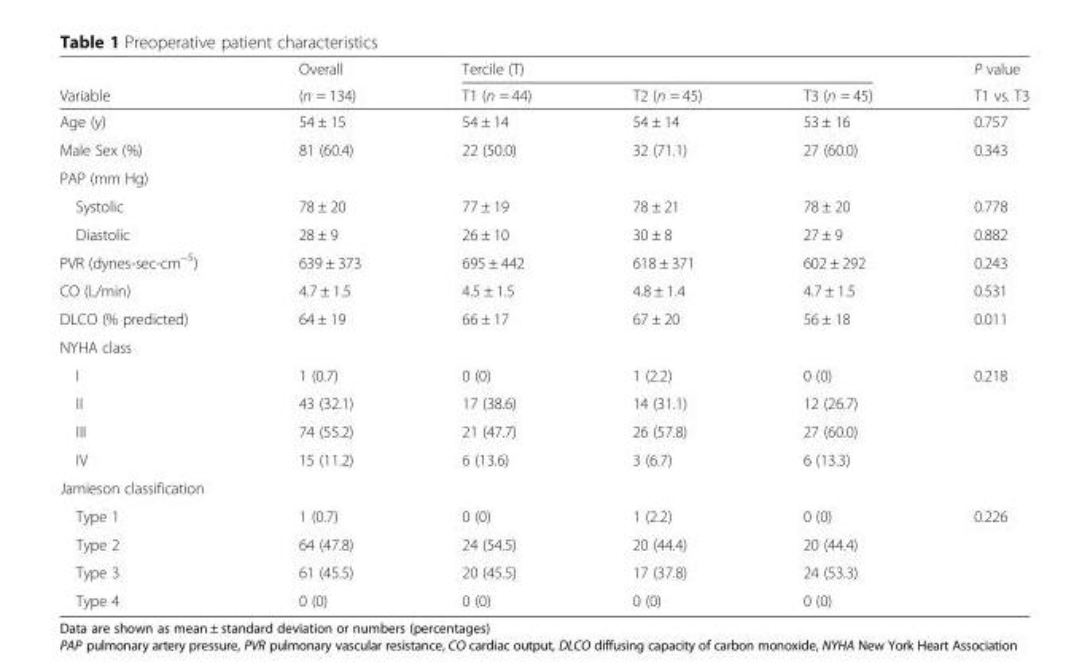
<table><thead><tr><td rowspan="2">Variable</td><td rowspan="2">Overall (n = 134)</td><td colspan="3">Tercile (T)</td><td rowspan="2">P value T1 vs. T3</td></tr><tr><td>T1 (n = 44)</td><td>T2 (n = 45)</td><td>T3 (n = 45)</td></tr></thead><tbody><tr><td>Age (y)</td><td>54 ± 15</td><td>54 ± 14</td><td>54 ± 14</td><td>53 ± 16</td><td>0.757</td></tr><tr><td>Male Sex (%)</td><td>81 (60.4)</td><td>22 (50.0)</td><td>32 (71.1)</td><td>27 (60.0)</td><td>0.343</td></tr><tr><td colspan="6">PAP (mm Hg)</td></tr><tr><td>Systolic</td><td>78 ± 20</td><td>77 ± 19</td><td>78 ± 21</td><td>78 ± 20</td><td>0.778</td></tr><tr><td>Diastolic</td><td>28 ± 9</td><td>26 ± 10</td><td>30 ± 8</td><td>27 ± 9</td><td>0.882</td></tr><tr><td>PVR (dynes-sec-cm<sup>−5</sup>)</td><td>639 ± 373</td><td>695 ± 442</td><td>618 ± 371</td><td>602 ± 292</td><td>0.243</td></tr><tr><td>CO (L/min)</td><td>4.7 ± 1.5</td><td>4.5 ± 1.5</td><td>4.8 ± 1.4</td><td>4.7 ± 1.5</td><td>0.531</td></tr><tr><td>DLCO (% predicted)</td><td>64 ± 19</td><td>66 ± 17</td><td>67 ± 20</td><td>56 ± 18</td><td>0.011</td></tr><tr><td colspan="6">NYHA class</td></tr><tr><td>I</td><td>1 (0.7)</td><td>0 (0)</td><td>1 (2.2)</td><td>0 (0)</td><td>0.218</td></tr><tr><td>II</td><td>43 (32.1)</td><td>17 (38.6)</td><td>14 (31.1)</td><td>12 (26.7)</td><td></td></tr><tr><td>III</td><td>74 (55.2)</td><td>21 (47.7)</td><td>26 (57.8)</td><td>27 (60.0)</td><td></td></tr><tr><td>IV</td><td>15 (11.2)</td><td>6 (13.6)</td><td>3 (6.7)</td><td>6 (13.3)</td><td></td></tr><tr><td colspan="6">Jamieson classification</td></tr><tr><td>Type 1</td><td>1 (0.7)</td><td>0 (0)</td><td>1 (2.2)</td><td>0 (0)</td><td>0.226</td></tr><tr><td>Type 2</td><td>64 (47.8)</td><td>24 (54.5)</td><td>20 (44.4)</td><td>20 (44.4)</td><td></td></tr><tr><td>Type 3</td><td>61 (45.5)</td><td>20 (45.5)</td><td>17 (37.8)</td><td>24 (53.3)</td><td></td></tr><tr><td>Type 4</td><td>0 (0)</td><td>0 (0)</td><td>0 (0)</td><td>0 (0)</td><td></td></tr></tbody></table>